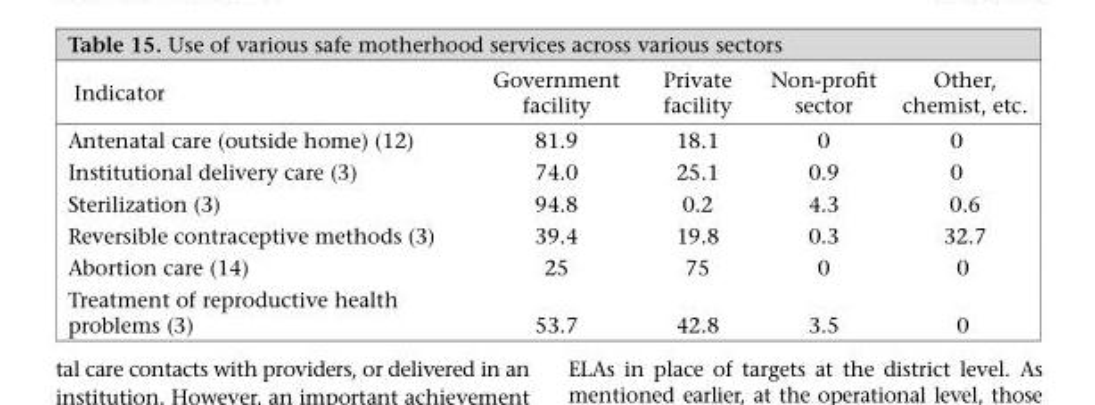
<table><thead><tr><td>Indicator</td><td>Government facility</td><td>Private facility</td><td>Non-profit sector</td><td>Other, chemist, etc.</td></tr></thead><tbody><tr><td>Antenatal care (outside home) (12)</td><td>81.9</td><td>18.1</td><td>0</td><td>0</td></tr><tr><td>Institutional delivery care (3)</td><td>74.0</td><td>25.1</td><td>0.9</td><td>0</td></tr><tr><td>Sterilization (3)</td><td>94.8</td><td>0.2</td><td>4.3</td><td>0.6</td></tr><tr><td>Reversible contraceptive methods (3)</td><td>39.4</td><td>19.8</td><td>0.3</td><td>32.7</td></tr><tr><td>Abortion care (14)</td><td>25</td><td>75</td><td>0</td><td>0</td></tr><tr><td>Treatment of reproductive health problems (3)</td><td>53.7</td><td>42.8</td><td>3.5</td><td>0</td></tr></tbody></table>